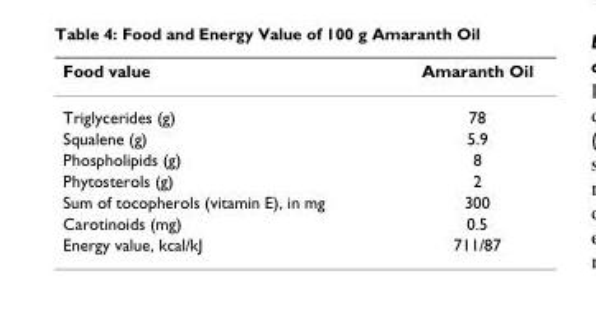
<table><thead><tr><td>Food value</td><td>Amaranth Oil</td></tr></thead><tbody><tr><td>Triglycerides (g)</td><td>78</td></tr><tr><td>Squalene (g)</td><td>5.9</td></tr><tr><td>Phospholipids (g)</td><td>8</td></tr><tr><td>Phytosterols (g)</td><td>2</td></tr><tr><td>Sum of tocopherols (vitamin E), in mg</td><td>300</td></tr><tr><td>Carotinoids (mg)</td><td>0.5</td></tr><tr><td>Energy value, kcal/kJ</td><td>711/87</td></tr></tbody></table>